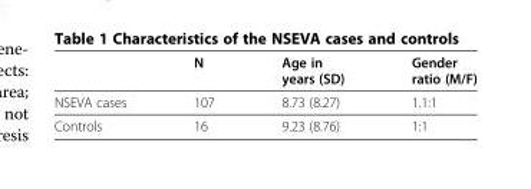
<table><thead><tr><td></td><td>N</td><td>Age in years (SD)</td><td>Gender ratio (M/F)</td></tr></thead><tbody><tr><td>NSEVA cases</td><td>107</td><td>8.73 (8.27)</td><td>1.1:1</td></tr><tr><td>Controls</td><td>16</td><td>9.23 (8.76)</td><td>1:1</td></tr></tbody></table>